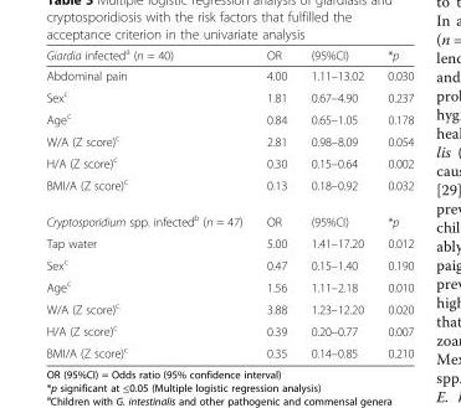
<table><thead><tr><td>Giardia infected<sup>a</sup> (n = 40)</td><td>OR</td><td>(95%CI)</td><td>*p</td></tr></thead><tbody><tr><td>Abdominal pain</td><td>4.00</td><td>1.11–13.02</td><td>0.030</td></tr><tr><td>Sex<sup>c</sup></td><td>1.81</td><td>0.67–4.90</td><td>0.237</td></tr><tr><td>Age<sup>c</sup></td><td>0.84</td><td>0.65–1.05</td><td>0.178</td></tr><tr><td>W/A (Z score)<sup>c</sup></td><td>2.81</td><td>0.98–8.09</td><td>0.054</td></tr><tr><td>H/A (Z score)<sup>c</sup></td><td>0.30</td><td>0.15–0.64</td><td>0.002</td></tr><tr><td>BMI/A (Z score)<sup>c</sup></td><td>0.13</td><td>0.18–0.92</td><td>0.032</td></tr><tr><td>Cryptosporidium spp. infected<sup>b</sup> (n = 47)</td><td>OR</td><td>(95%CI)</td><td>*p</td></tr><tr><td>Tap water</td><td>5.00</td><td>1.41–17.20</td><td>0.012</td></tr><tr><td>Sex<sup>c</sup></td><td>0.47</td><td>0.15–1.40</td><td>0.190</td></tr><tr><td>Age<sup>c</sup></td><td>1.56</td><td>1.11–2.18</td><td>0.010</td></tr><tr><td>W/A (Z score)<sup>c</sup></td><td>3.88</td><td>1.23–12.20</td><td>0.020</td></tr><tr><td>H/A (Z score)<sup>c</sup></td><td>0.39</td><td>0.20–0.77</td><td>0.007</td></tr><tr><td>BMI/A (Z score)<sup>c</sup></td><td>0.35</td><td>0.14–0.85</td><td>0.210</td></tr></tbody></table>